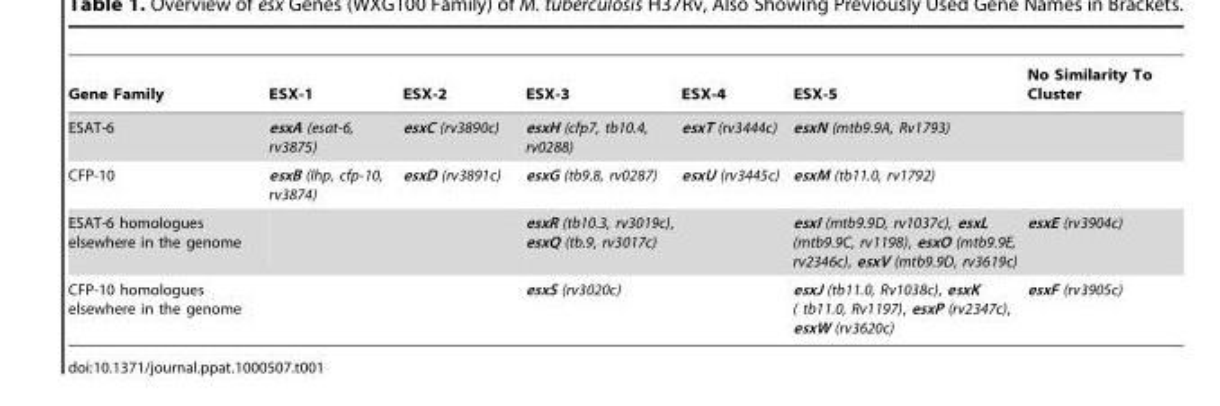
<table><thead><tr><td>Gene Family</td><td>ESX-1</td><td>ESX-2</td><td>ESX-3</td><td>ESX-4</td><td>ESX-5</td><td>No Similarity To Cluster</td></tr></thead><tbody><tr><td>ESAT-6</td><td>esxA (esat-6, rv3875)</td><td>esxC (rv3890c)</td><td>esxH (cfp7, tb10.4, rv0288)</td><td>esxT (rv3444c)</td><td>esxN (mtb9.9A, Rv1793)</td><td></td></tr><tr><td>CFP-10</td><td>esxB (lhp, cfp-10, rv3874)</td><td>esxD (rv3891c)</td><td>esxG (tb9.8, rv0287)</td><td>esxU (rv3445c)</td><td>esxM (tb11.0, rv1792)</td><td></td></tr><tr><td>ESAT-6 homologues elsewhere in the genome</td><td></td><td></td><td>esxR (tb10.3, rv3019c), esxQ (tb.9, rv3017c)</td><td></td><td>esxI (mtb9.9D, rv1037c), esxL (mtb9.9C, rv1198), esxO (mtb9.9E, rv2346c), esxV (mtb9.9D, rv3619c)</td><td>esxE (rv3904c)</td></tr><tr><td>CFP-10 homologues elsewhere in the genome</td><td></td><td></td><td>esxS (rv3020c)</td><td></td><td>esxJ (tb11.0, Rv1038c), esxK ( tb11.0, Rv1197), esxP (rv2347c), esxW (rv3620c)</td><td>esxF (rv3905c)</td></tr></tbody></table>